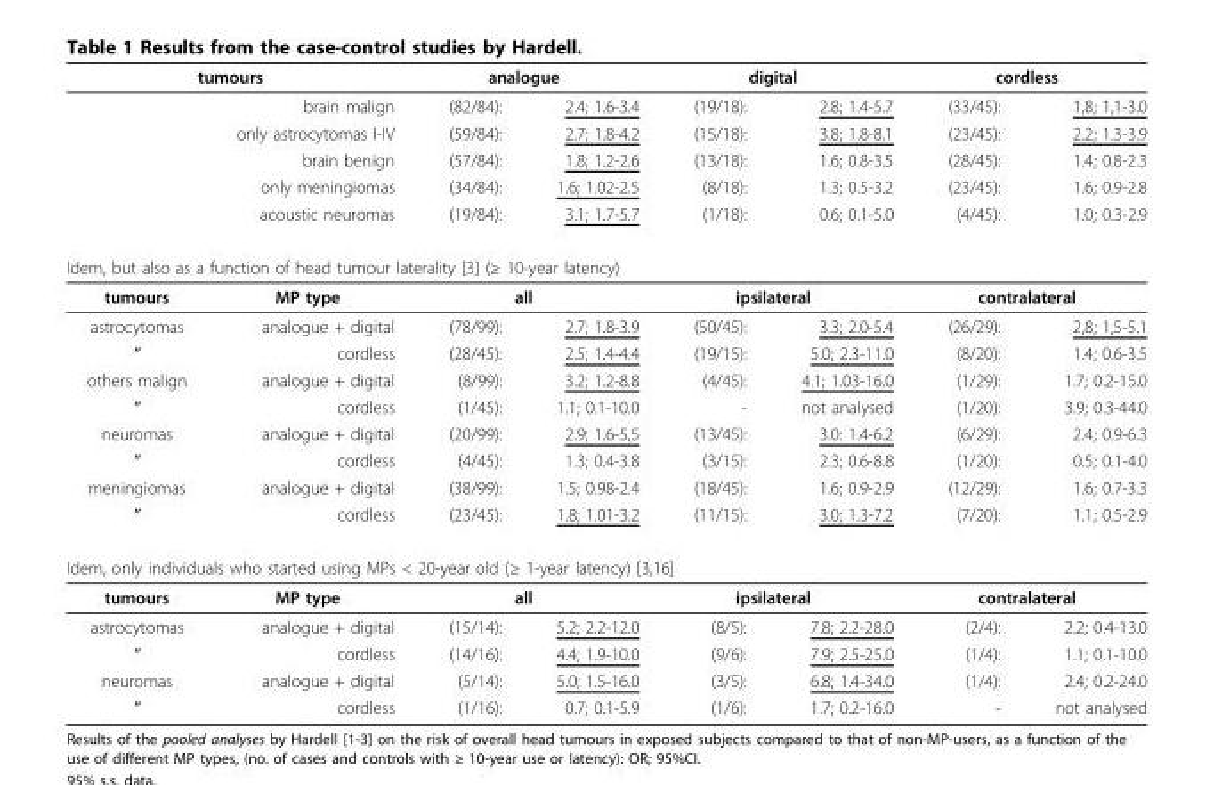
<table><thead><tr><td colspan="2">tumours</td><td colspan="2">analogue</td><td colspan="2">digital</td><td colspan="2">cordless</td></tr></thead><tbody><tr><td colspan="2">brain malign</td><td>(82/84):</td><td>2.4; 1.6-3.4</td><td>(19/18):</td><td>2.8; 1.4-5.7</td><td>(33/45):</td><td>1,8; 1,1-3.0</td></tr><tr><td colspan="2">only astrocytomas I-IV</td><td>(59/84):</td><td>2.7; 1.8-4.2</td><td>(15/18):</td><td>3.8; 1.8-8.1</td><td>(23/45):</td><td>2.2; 1.3-3.9</td></tr><tr><td colspan="2">brain benign</td><td>(57/84):</td><td>1.8; 1.2-2.6</td><td>(13/18):</td><td>1.6; 0.8-3.5</td><td>(28/45):</td><td>1.4; 0.8-2.3</td></tr><tr><td colspan="2">only meningiomas</td><td>(34/84):</td><td>1.6; 1.02-2.5</td><td>(8/18):</td><td>1.3; 0.5-3.2</td><td>(23/45):</td><td>1.6; 0.9-2.8</td></tr><tr><td colspan="2">acoustic neuromas</td><td>(19/84):</td><td>3.1; 1.7-5.7</td><td>(1/18):</td><td>0.6; 0.1-5.0</td><td>(4/45):</td><td>1.0; 0.3-2.9</td></tr><tr><td colspan="8">Idem, but also as a function of head tumour laterality [3] (≥ 10-year latency)</td></tr><tr><td>tumours</td><td>MP type</td><td colspan="2">all</td><td colspan="2">ipsilateral</td><td colspan="2">contralateral</td></tr><tr><td>astrocytomas</td><td>analogue + digital</td><td>(78/99):</td><td>2.7; 1.8-3.9</td><td>(50/45):</td><td>3.3; 2.0-5.4</td><td>(26/29):</td><td>2,8; 1,5-5.1</td></tr><tr><td>″</td><td>cordless</td><td>(28/45):</td><td>2.5; 1.4-4.4</td><td>(19/15):</td><td>5.0; 2.3-11.0</td><td>(8/20):</td><td>1.4; 0.6-3.5</td></tr><tr><td>others malign</td><td>analogue + digital</td><td>(8/99):</td><td>3.2; 1.2-8.8</td><td>(4/45):</td><td>4.1; 1.03-16.0</td><td>(1/29):</td><td>1.7; 0.2-15.0</td></tr><tr><td>″</td><td>cordless</td><td>(1/45):</td><td>1.1; 0.1-10.0</td><td>-</td><td>not analysed</td><td>(1/20):</td><td>3.9; 0.3-44.0</td></tr><tr><td>neuromas</td><td>analogue + digital</td><td>(20/99):</td><td>2.9; 1.6-5,5</td><td>(13/45):</td><td>3.0: 1.4-6.2</td><td>(6/29):</td><td>2.4; 0.9-6.3</td></tr><tr><td>″</td><td>cordless</td><td>(4/45):</td><td>1.3; 0.4-3.8</td><td>(3/15):</td><td>2.3; 0.6-8.8</td><td>(1/20):</td><td>0.5; 0.1-4.0</td></tr><tr><td>meningiomas</td><td>analogue + digital</td><td>(38/99):</td><td>1.5; 0.98-2.4</td><td>(18/45):</td><td>1.6; 0.9-2.9</td><td>(12/29):</td><td>1.6; 0.7-3.3</td></tr><tr><td>″</td><td>cordless</td><td>(23/45):</td><td>1.8; 1.01-3.2</td><td>(11/15):</td><td>3.0; 1.3-7.2</td><td>(7/20):</td><td>1.1; 0.5-2.9</td></tr><tr><td colspan="8">Idem, only individuals who started using MPs &lt; 20-year old (≥ 1-year latency) [3,16]</td></tr><tr><td>tumours</td><td>MP type</td><td colspan="2">all</td><td colspan="2">ipsilateral</td><td colspan="2">contralateral</td></tr><tr><td>astrocytomas</td><td>analogue + digital</td><td>(15/14):</td><td>5.2; 2.2-12.0</td><td>(8/5):</td><td>7.8; 2.2-28.0</td><td>(2/4):</td><td>2.2; 0.4-13.0</td></tr><tr><td>″</td><td>cordless</td><td>(14/16):</td><td>4.4; 1.9-10.0</td><td>(9/6):</td><td>7.9; 2.5-25.0</td><td>(1/4):</td><td>1.1; 0.1-10.0</td></tr><tr><td>neuromas</td><td>analogue + digital</td><td>(5/14):</td><td>5.0; 1.5-16.0</td><td>(3/5):</td><td>6.8; 1.4-34.0</td><td>(1/4):</td><td>2.4; 0.2-24.0</td></tr><tr><td>″</td><td>cordless</td><td>(1/16):</td><td>0.7; 0.1-5.9</td><td>(1/6):</td><td>1.7; 0.2-16.0</td><td>-</td><td>not analysed</td></tr></tbody></table>